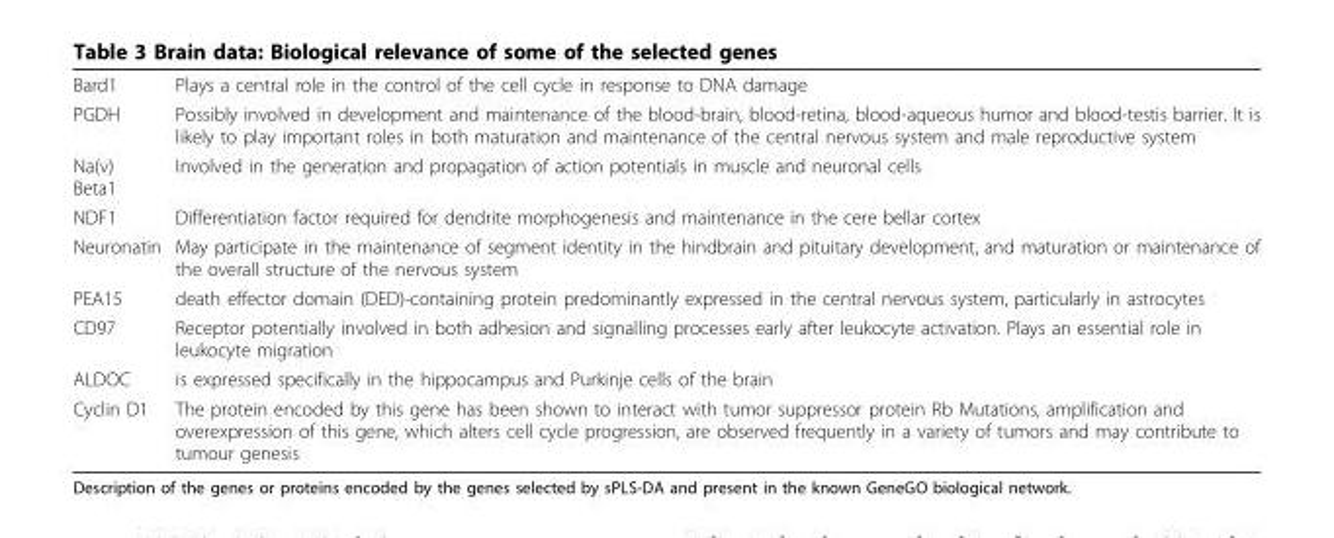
<table><tbody><tr><td>Bard1</td><td>Plays a central role in the control of the cell cycle in response to DNA damage</td></tr><tr><td>PGDH</td><td>Possibly involved in development and maintenance of the blood-brain, blood-retina, blood-aqueous humor and blood-testis barrier. It is likely to play important roles in both maturation and maintenance of the central nervous system and male reproductive system</td></tr><tr><td>Na(v) Beta1</td><td>Involved in the generation and propagation of action potentials in muscle and neuronal cells</td></tr><tr><td>NDF1</td><td>Differentiation factor required for dendrite morphogenesis and maintenance in the cere bellar cortex</td></tr><tr><td>Neuronatin</td><td>May participate in the maintenance of segment identity in the hindbrain and pituitary development, and maturation or maintenance of the overall structure of the nervous system</td></tr><tr><td>PEA15</td><td>death effector domain (DED)-containing protein predominantly expressed in the central nervous system, particularly in astrocytes</td></tr><tr><td>CD97</td><td>Receptor potentially involved in both adhesion and signalling processes early after leukocyte activation. Plays an essential role in leukocyte migration</td></tr><tr><td>ALDOC</td><td>is expressed specifically in the hippocampus and Purkinje cells of the brain</td></tr><tr><td>Cyclin D1</td><td>The protein encoded by this gene has been shown to interact with tumor suppressor protein Rb Mutations, amplification and overexpression of this gene, which alters cell cycle progression, are observed frequently in a variety of tumors and may contribute to tumour genesis</td></tr></tbody></table>